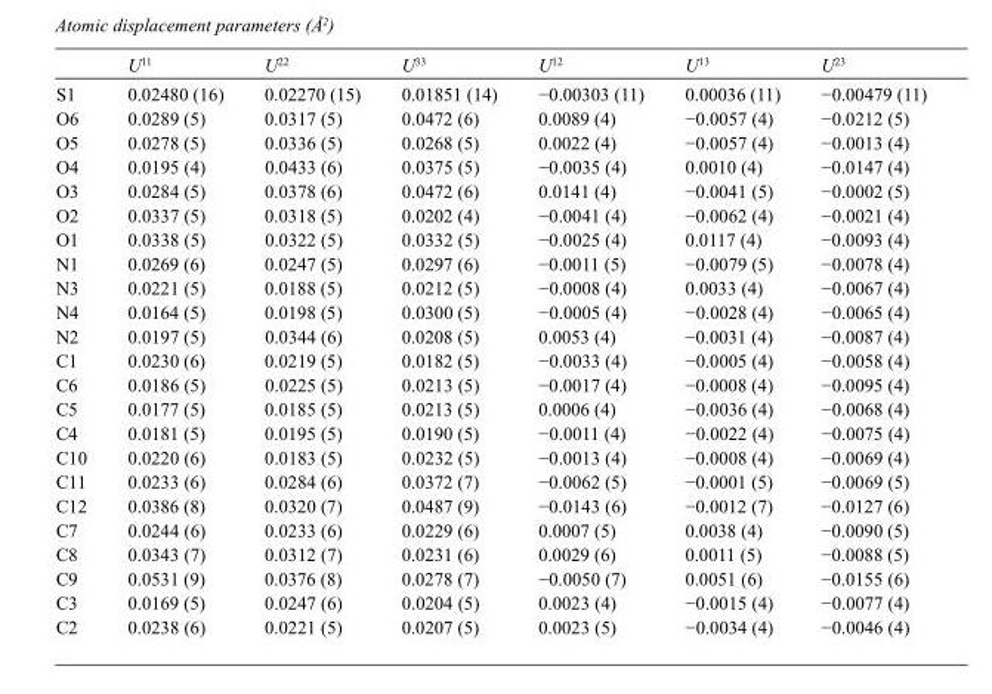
<table><thead><tr><td></td><td>U<sup>11</sup></td><td>U<sup>22</sup></td><td>U<sup>33</sup></td><td>U<sup>12</sup></td><td>U<sup>13</sup></td><td>U<sup>23</sup></td></tr></thead><tbody><tr><td>S1</td><td>0.02480 (16)</td><td>0.02270 (15)</td><td>0.01851 (14)</td><td>−0.00303 (11)</td><td>0.00036 (11)</td><td>−0.00479 (11)</td></tr><tr><td>O6</td><td>0.0289 (5)</td><td>0.0317 (5)</td><td>0.0472 (6)</td><td>0.0089 (4)</td><td>−0.0057 (4)</td><td>−0.0212 (5)</td></tr><tr><td>O5</td><td>0.0278 (5)</td><td>0.0336 (5)</td><td>0.0268 (5)</td><td>0.0022 (4)</td><td>−0.0057 (4)</td><td>−0.0013 (4)</td></tr><tr><td>O4</td><td>0.0195 (4)</td><td>0.0433 (6)</td><td>0.0375 (5)</td><td>−0.0035 (4)</td><td>0.0010 (4)</td><td>−0.0147 (4)</td></tr><tr><td>O3</td><td>0.0284 (5)</td><td>0.0378 (6)</td><td>0.0472 (6)</td><td>0.0141 (4)</td><td>−0.0041 (5)</td><td>−0.0002 (5)</td></tr><tr><td>O2</td><td>0.0337 (5)</td><td>0.0318 (5)</td><td>0.0202 (4)</td><td>−0.0041 (4)</td><td>−0.0062 (4)</td><td>−0.0021 (4)</td></tr><tr><td>O1</td><td>0.0338 (5)</td><td>0.0322 (5)</td><td>0.0332 (5)</td><td>−0.0025 (4)</td><td>0.0117 (4)</td><td>−0.0093 (4)</td></tr><tr><td>N1</td><td>0.0269 (6)</td><td>0.0247 (5)</td><td>0.0297 (6)</td><td>−0.0011 (5)</td><td>−0.0079 (5)</td><td>−0.0078 (4)</td></tr><tr><td>N3</td><td>0.0221 (5)</td><td>0.0188 (5)</td><td>0.0212 (5)</td><td>−0.0008 (4)</td><td>0.0033 (4)</td><td>−0.0067 (4)</td></tr><tr><td>N4</td><td>0.0164 (5)</td><td>0.0198 (5)</td><td>0.0300 (5)</td><td>−0.0005 (4)</td><td>−0.0028 (4)</td><td>−0.0065 (4)</td></tr><tr><td>N2</td><td>0.0197 (5)</td><td>0.0344 (6)</td><td>0.0208 (5)</td><td>0.0053 (4)</td><td>−0.0031 (4)</td><td>−0.0087 (4)</td></tr><tr><td>C1</td><td>0.0230 (6)</td><td>0.0219 (5)</td><td>0.0182 (5)</td><td>−0.0033 (4)</td><td>−0.0005 (4)</td><td>−0.0058 (4)</td></tr><tr><td>C6</td><td>0.0186 (5)</td><td>0.0225 (5)</td><td>0.0213 (5)</td><td>−0.0017 (4)</td><td>−0.0008 (4)</td><td>−0.0095 (4)</td></tr><tr><td>C5</td><td>0.0177 (5)</td><td>0.0185 (5)</td><td>0.0213 (5)</td><td>0.0006 (4)</td><td>−0.0036 (4)</td><td>−0.0068 (4)</td></tr><tr><td>C4</td><td>0.0181 (5)</td><td>0.0195 (5)</td><td>0.0190 (5)</td><td>−0.0011 (4)</td><td>−0.0022 (4)</td><td>−0.0075 (4)</td></tr><tr><td>C10</td><td>0.0220 (6)</td><td>0.0183 (5)</td><td>0.0232 (5)</td><td>−0.0013 (4)</td><td>−0.0008 (4)</td><td>−0.0069 (4)</td></tr><tr><td>C11</td><td>0.0233 (6)</td><td>0.0284 (6)</td><td>0.0372 (7)</td><td>−0.0062 (5)</td><td>−0.0001 (5)</td><td>−0.0069 (5)</td></tr><tr><td>C12</td><td>0.0386 (8)</td><td>0.0320 (7)</td><td>0.0487 (9)</td><td>−0.0143 (6)</td><td>−0.0012 (7)</td><td>−0.0127 (6)</td></tr><tr><td>C7</td><td>0.0244 (6)</td><td>0.0233 (6)</td><td>0.0229 (6)</td><td>0.0007 (5)</td><td>0.0038 (4)</td><td>−0.0090 (5)</td></tr><tr><td>C8</td><td>0.0343 (7)</td><td>0.0312 (7)</td><td>0.0231 (6)</td><td>0.0029 (6)</td><td>0.0011 (5)</td><td>−0.0088 (5)</td></tr><tr><td>C9</td><td>0.0531 (9)</td><td>0.0376 (8)</td><td>0.0278 (7)</td><td>−0.0050 (7)</td><td>0.0051 (6)</td><td>−0.0155 (6)</td></tr><tr><td>C3</td><td>0.0169 (5)</td><td>0.0247 (6)</td><td>0.0204 (5)</td><td>0.0023 (4)</td><td>−0.0015 (4)</td><td>−0.0077 (4)</td></tr><tr><td>C2</td><td>0.0238 (6)</td><td>0.0221 (5)</td><td>0.0207 (5)</td><td>0.0023 (5)</td><td>−0.0034 (4)</td><td>−0.0046 (4)</td></tr></tbody></table>